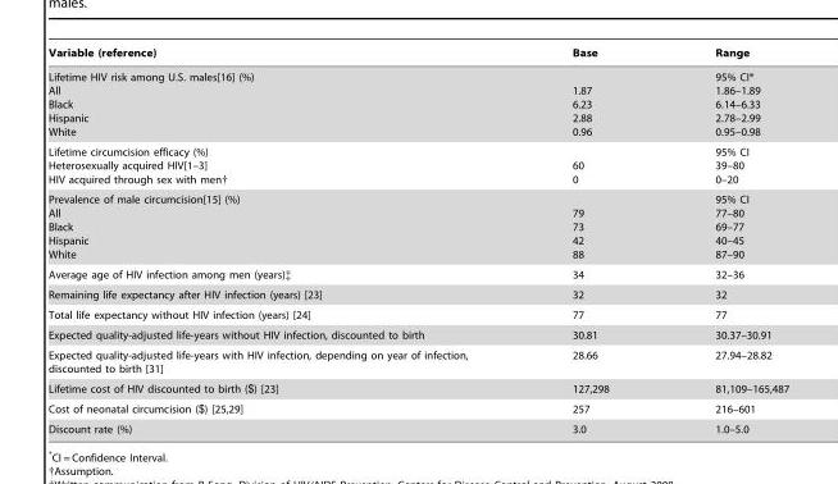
<table><thead><tr><td>Variable (reference)</td><td>Base</td><td>Range</td></tr></thead><tbody><tr><td>Lifetime HIV risk among U.S. males[16] (%) All Black Hispanic White</td><td>1.87 6.23 2.88 0.96</td><td>95% CI* 1.86–1.89 6.14–6.33 2.78–2.99 0.95–0.98</td></tr><tr><td>Lifetime circumcision efficacy (%) Heterosexually acquired HIV[1–3] HIV acquired through sex with men{</td><td>60 0</td><td>95% CI 39–80 0–20</td></tr><tr><td>Prevalence of male circumcision[15] (%) All Black Hispanic White</td><td>79 73 42 88</td><td>95% CI 77–80 69–77 40–45 87–90</td></tr><tr><td>Average age of HIV infection among men (years)‡</td><td>34</td><td>32–36</td></tr><tr><td>Remaining life expectancy after HIV infection (years) [23]</td><td>32</td><td>32</td></tr><tr><td>Total life expectancy without HIV infection (years) [24]</td><td>77</td><td>77</td></tr><tr><td>Expected quality-adjusted life-years without HIV infection, discounted to birth</td><td>30.81</td><td>30.37–30.91</td></tr><tr><td>Expected quality-adjusted life-years with HIV infection, depending on year of infection, discounted to birth [31]</td><td>28.66</td><td>27.94–28.82</td></tr><tr><td>Lifetime cost of HIV discounted to birth ($) [23]</td><td>127,298</td><td>81,109–165,487</td></tr><tr><td>Cost of neonatal circumcision ($) [25,29]</td><td>257</td><td>216–601</td></tr><tr><td>Discount rate (%)</td><td>3.0</td><td>1.0–5.0</td></tr></tbody></table>